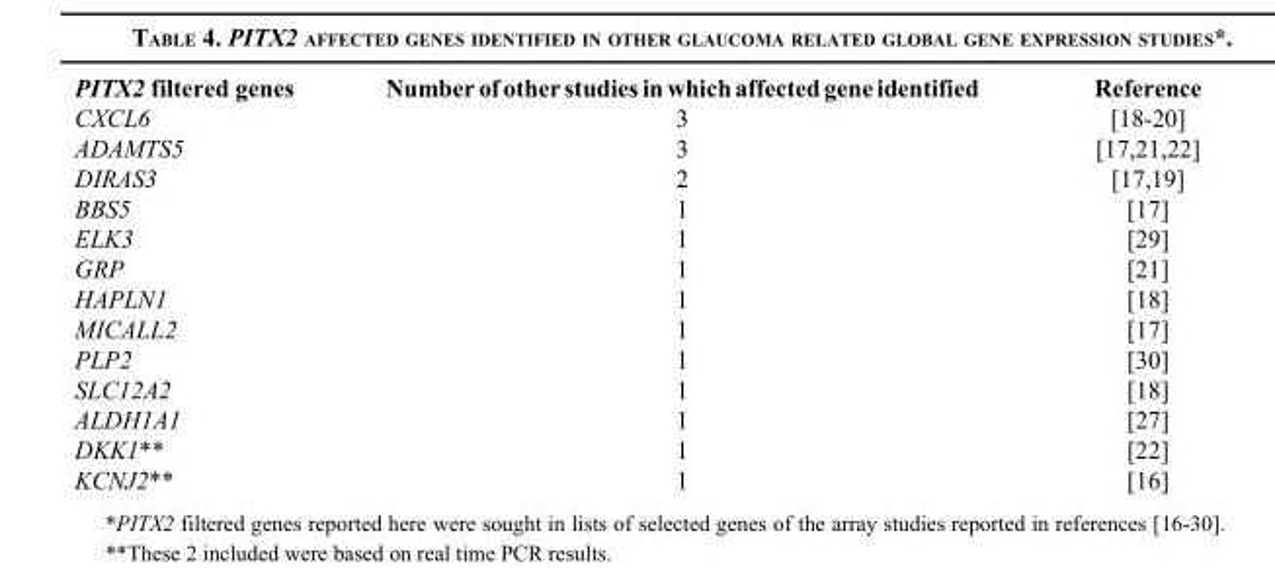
<table><thead><tr><td>PITX2 filtered genes</td><td>Number of other studies in which affected gene identified</td><td>Reference</td></tr></thead><tbody><tr><td>CXCL6</td><td>3</td><td>[18-20]</td></tr><tr><td>ADAMTS5</td><td>3</td><td>[17,21,22]</td></tr><tr><td>DIRAS3</td><td>2</td><td>[17,19]</td></tr><tr><td>BBS5</td><td>1</td><td>[17]</td></tr><tr><td>ELK3</td><td>1</td><td>[29]</td></tr><tr><td>GRP</td><td>1</td><td>[21]</td></tr><tr><td>HAPLN1</td><td>1</td><td>[18]</td></tr><tr><td>MICALL2</td><td>1</td><td>[17]</td></tr><tr><td>PLP2</td><td>1</td><td>[30]</td></tr><tr><td>SLC12A2</td><td>1</td><td>[18]</td></tr><tr><td>ALDH1A1</td><td>1</td><td>[27]</td></tr><tr><td>DKK1**</td><td>1</td><td>[22]</td></tr><tr><td>KCNJ2**</td><td>1</td><td>[16]</td></tr></tbody></table>